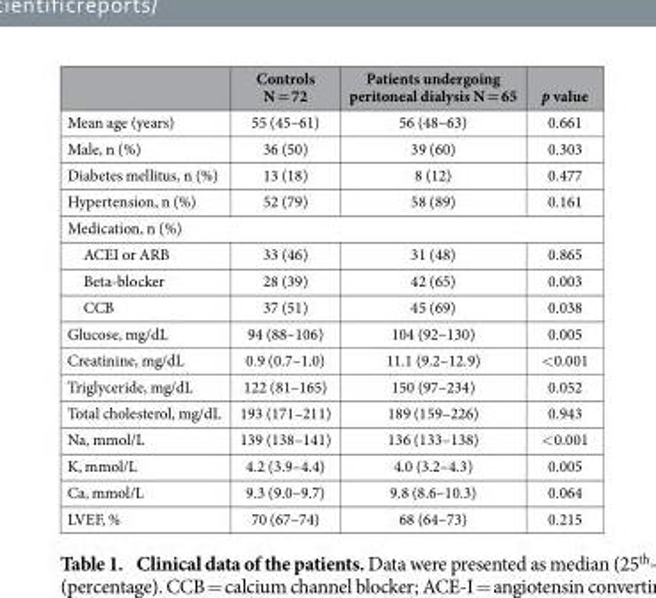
<table><thead><tr><td></td><td>Controls N = 72</td><td>Patients undergoing peritoneal dialysis N = 65</td><td>p value</td></tr></thead><tbody><tr><td>Mean age (years)</td><td>55 (45–61)</td><td>56 (48–63)</td><td>0.661</td></tr><tr><td>Male, n (%)</td><td>36 (50)</td><td>39 (60)</td><td>0.303</td></tr><tr><td>Diabetes mellitus, n (%)</td><td>13 (18)</td><td>8 (12)</td><td>0.477</td></tr><tr><td>Hypertension, n (%)</td><td>52 (79)</td><td>58 (89)</td><td>0.161</td></tr><tr><td colspan="4">Medication, n (%)</td></tr><tr><td>ACEI or ARB</td><td>33 (46)</td><td>31 (48)</td><td>0.865</td></tr><tr><td>Beta-blocker</td><td>28 (39)</td><td>42 (65)</td><td>0.003</td></tr><tr><td>CCB</td><td>37 (51)</td><td>45 (69)</td><td>0.038</td></tr><tr><td>Glucose, mg/dL</td><td>94 (88–106)</td><td>104 (92–130)</td><td>0.005</td></tr><tr><td>Creatinine, mg/dL</td><td>0.9 (0.7–1.0)</td><td>11.1 (9.2–12.9)</td><td>&lt; 0.001</td></tr><tr><td>Triglyceride, mg/dL</td><td>122 (81–165)</td><td>150 (97–234)</td><td>0.052</td></tr><tr><td>Total cholesterol, mg/dL</td><td>193 (171–211)</td><td>189 (159–226)</td><td>0.943</td></tr><tr><td>Na, mmol/L</td><td>139 (138–141)</td><td>136 (133–138)</td><td>&lt; 0.001</td></tr><tr><td>K, mmol/L</td><td>4.2 (3.9–4.4)</td><td>4.0 (3.2–4.3)</td><td>0.005</td></tr><tr><td>Ca, mmol/L</td><td>9.3 (9.0–9.7)</td><td>9.8 (8.6–10.3)</td><td>0.064</td></tr><tr><td>LVEF, %</td><td>70 (67–74)</td><td>68 (64–73)</td><td>0.215</td></tr></tbody></table>